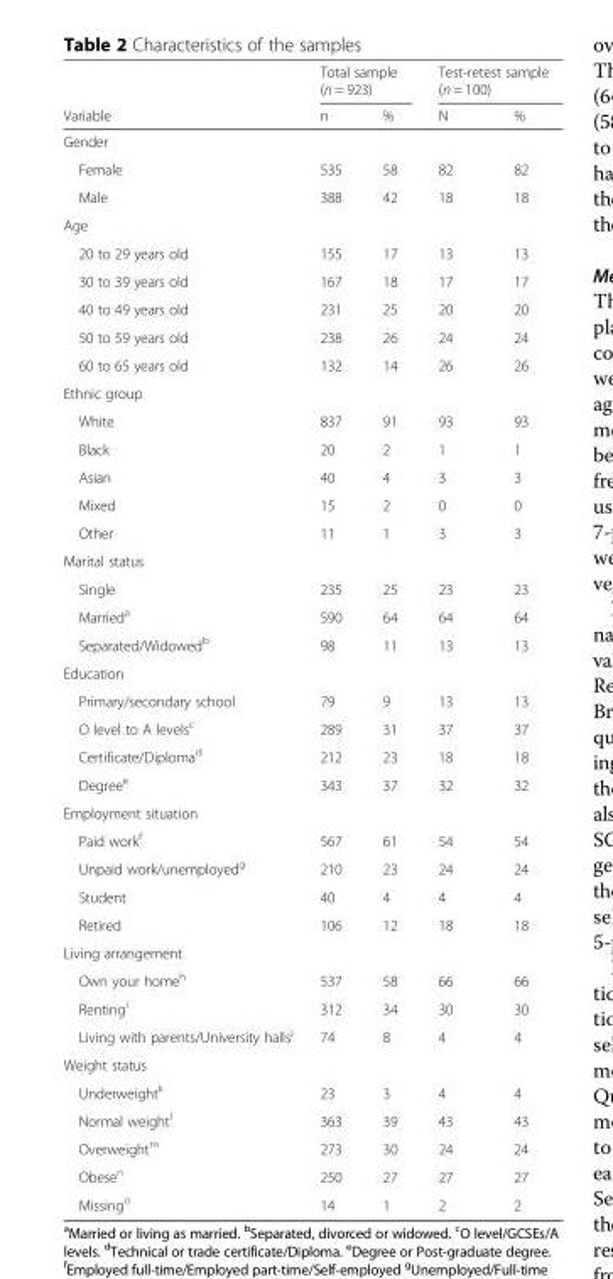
<table><thead><tr><td rowspan="2">Variable</td><td colspan="2">Total sample (n = 923)</td><td colspan="2">Test-retest sample (n = 100)</td></tr><tr><td>n</td><td>%</td><td>N</td><td>%</td></tr></thead><tbody><tr><td colspan="5">Gender</td></tr><tr><td>Female</td><td>535</td><td>58</td><td>82</td><td>82</td></tr><tr><td>Male</td><td>388</td><td>42</td><td>18</td><td>18</td></tr><tr><td colspan="5">Age</td></tr><tr><td>20 to 29 years old</td><td>155</td><td>17</td><td>13</td><td>13</td></tr><tr><td>30 to 39 years old</td><td>167</td><td>18</td><td>17</td><td>17</td></tr><tr><td>40 to 49 years old</td><td>231</td><td>25</td><td>20</td><td>20</td></tr><tr><td>50 to 59 years old</td><td>238</td><td>26</td><td>24</td><td>24</td></tr><tr><td>60 to 65 years old</td><td>132</td><td>14</td><td>26</td><td>26</td></tr><tr><td colspan="5">Ethnic group</td></tr><tr><td>White</td><td>837</td><td>91</td><td>93</td><td>93</td></tr><tr><td>Black</td><td>20</td><td>2</td><td>1</td><td>1</td></tr><tr><td>Asian</td><td>40</td><td>4</td><td>3</td><td>3</td></tr><tr><td>Mixed</td><td>15</td><td>2</td><td>0</td><td>0</td></tr><tr><td>Other</td><td>11</td><td>1</td><td>3</td><td>3</td></tr><tr><td colspan="5">Marital status</td></tr><tr><td>Single</td><td>235</td><td>25</td><td>23</td><td>23</td></tr><tr><td>Married<sup>a</sup></td><td>590</td><td>64</td><td>64</td><td>64</td></tr><tr><td>Separated/Widowed<sup>b</sup></td><td>98</td><td>11</td><td>13</td><td>13</td></tr><tr><td colspan="5">Education</td></tr><tr><td>Primary/secondary school</td><td>79</td><td>9</td><td>13</td><td>13</td></tr><tr><td>O level to A levels<sup>c</sup></td><td>289</td><td>31</td><td>37</td><td>37</td></tr><tr><td>Certificate/Diploma<sup>d</sup></td><td>212</td><td>23</td><td>18</td><td>18</td></tr><tr><td>Degree<sup>e</sup></td><td>343</td><td>37</td><td>32</td><td>32</td></tr><tr><td colspan="5">Employment situation</td></tr><tr><td>Paid work<sup>f</sup></td><td>567</td><td>61</td><td>54</td><td>54</td></tr><tr><td>Unpaid work/unemployed<sup>g</sup></td><td>210</td><td>23</td><td>24</td><td>24</td></tr><tr><td>Student</td><td>40</td><td>4</td><td>4</td><td>4</td></tr><tr><td>Retired</td><td>106</td><td>12</td><td>18</td><td>18</td></tr><tr><td colspan="5">Living arrangement</td></tr><tr><td>Own your home<sup>h</sup></td><td>537</td><td>58</td><td>66</td><td>66</td></tr><tr><td>Renting<sup>i</sup></td><td>312</td><td>34</td><td>30</td><td>30</td></tr><tr><td>Living with parents/University halls<sup>j</sup></td><td>74</td><td>8</td><td>4</td><td>4</td></tr><tr><td colspan="5">Weight status</td></tr><tr><td>Underweight<sup>k</sup></td><td>23</td><td>3</td><td>4</td><td>4</td></tr><tr><td>Normal weight<sup>l</sup></td><td>363</td><td>39</td><td>43</td><td>43</td></tr><tr><td>Overweight<sup>m</sup></td><td>273</td><td>30</td><td>24</td><td>24</td></tr><tr><td>Obese<sup>n</sup></td><td>250</td><td>27</td><td>27</td><td>27</td></tr><tr><td>Missing<sup>o</sup></td><td>14</td><td>1</td><td>2</td><td>2</td></tr></tbody></table>